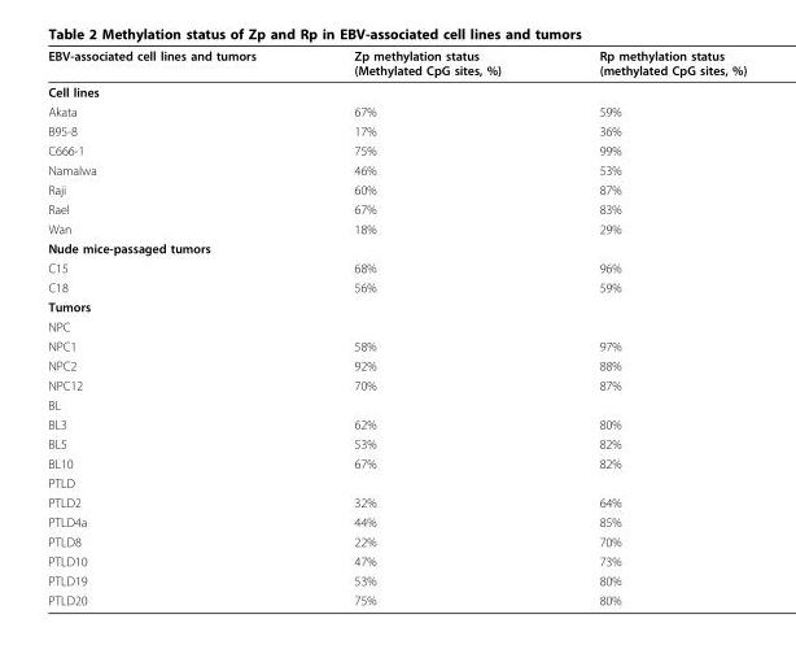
<table><thead><tr><td>EBV-associated cell lines and tumors</td><td>Zp methylation status (Methylated CpG sites, %)</td><td>Rp methylation status (methylated CpG sites, %)</td></tr></thead><tbody><tr><td colspan="3">Cell lines</td></tr><tr><td>Akata</td><td>67%</td><td>59%</td></tr><tr><td>B95-8</td><td>17%</td><td>36%</td></tr><tr><td>C666-1</td><td>75%</td><td>99%</td></tr><tr><td>Namalwa</td><td>46%</td><td>53%</td></tr><tr><td>Raji</td><td>60%</td><td>87%</td></tr><tr><td>Rael</td><td>67%</td><td>83%</td></tr><tr><td>Wan</td><td>18%</td><td>29%</td></tr><tr><td colspan="3">Nude mice-passaged tumors</td></tr><tr><td>C15</td><td>68%</td><td>96%</td></tr><tr><td>C18</td><td>56%</td><td>59%</td></tr><tr><td colspan="3">Tumors</td></tr><tr><td colspan="3">NPC</td></tr><tr><td>NPC1</td><td>58%</td><td>97%</td></tr><tr><td>NPC2</td><td>92%</td><td>88%</td></tr><tr><td>NPC12</td><td>70%</td><td>87%</td></tr><tr><td colspan="3">BL</td></tr><tr><td>BL3</td><td>62%</td><td>80%</td></tr><tr><td>BL5</td><td>53%</td><td>82%</td></tr><tr><td>BL10</td><td>67%</td><td>82%</td></tr><tr><td colspan="3">PTLD</td></tr><tr><td>PTLD2</td><td>32%</td><td>64%</td></tr><tr><td>PTLD4a</td><td>44%</td><td>85%</td></tr><tr><td>PTLD8</td><td>22%</td><td>70%</td></tr><tr><td>PTLD10</td><td>47%</td><td>73%</td></tr><tr><td>PTLD19</td><td>53%</td><td>80%</td></tr><tr><td>PTLD20</td><td>75%</td><td>80%</td></tr></tbody></table>